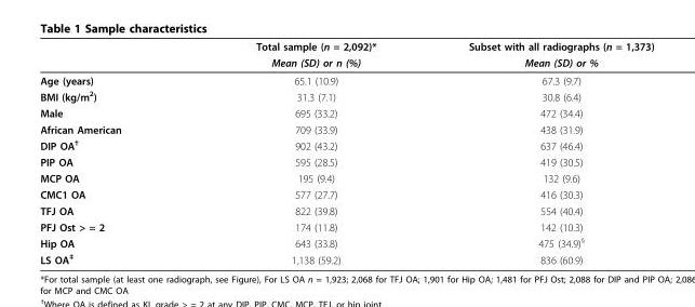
<table><thead><tr><td rowspan="2"></td><td rowspan="2">Total sample (n = 2,092)* Mean (SD) or n (%)</td><td rowspan="2">Subset with all radiographs (n = 1,373) Mean (SD) or %</td></tr><tr></tr></thead><tbody><tr><td>Age (years)</td><td>65.1 (10.9)</td><td>67.3 (9.7)</td></tr><tr><td>BMI (kg/m<sup>2</sup>)</td><td>31.3 (7.1)</td><td>30.8 (6.4)</td></tr><tr><td>Male</td><td>695 (33.2)</td><td>472 (34.4)</td></tr><tr><td>African American</td><td>709 (33.9)</td><td>438 (31.9)</td></tr><tr><td>DIP OA<sup>†</sup></td><td>902 (43.2)</td><td>637 (46.4)</td></tr><tr><td>PIP OA</td><td>595 (28.5)</td><td>419 (30.5)</td></tr><tr><td>MCP OA</td><td>195 (9.4)</td><td>132 (9.6)</td></tr><tr><td>CMC1 OA</td><td>577 (27.7)</td><td>416 (30.3)</td></tr><tr><td>TFJ OA</td><td>822 (39.8)</td><td>554 (40.4)</td></tr><tr><td>PFJ Ost &gt; = 2</td><td>174 (11.8)</td><td>142 (10.3)</td></tr><tr><td>Hip OA</td><td>643 (33.8)</td><td>475 (34.9)<sup>§</sup></td></tr><tr><td>LS OA<sup>‡</sup></td><td>1,138 (59.2)</td><td>836 (60.9)</td></tr></tbody></table>